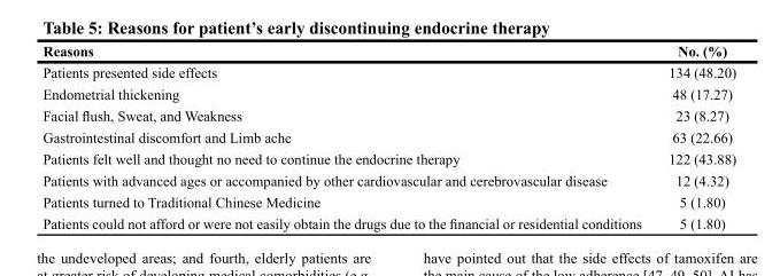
<table><thead><tr><td>Reasons</td><td>No. (%)</td></tr></thead><tbody><tr><td>Patients presented side effects</td><td>134 (48.20)</td></tr><tr><td>Endometrial thickening</td><td>48 (17.27)</td></tr><tr><td>Facial flush, Sweat, and Weakness</td><td>23 (8.27)</td></tr><tr><td>Gastrointestinal discomfort and Limb ache</td><td>63 (22.66)</td></tr><tr><td>Patients felt well and thought no need to continue the endocrine therapy</td><td>122 (43.88)</td></tr><tr><td>Patients with advanced ages or accompanied by other cardiovascular and cerebrovascular disease</td><td>12 (4.32)</td></tr><tr><td>Patients turned to Traditional Chinese Medicine</td><td>5 (1.80)</td></tr><tr><td>Patients could not afford or were not easily obtain the drugs due to the financial or residential conditions</td><td>5 (1.80)</td></tr></tbody></table>